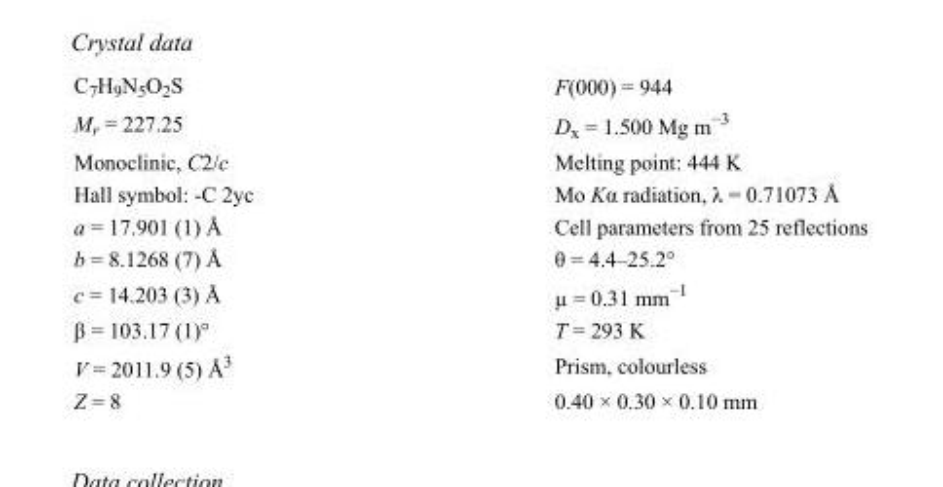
<table><tbody><tr><td>C<sub>7</sub>H<sub>9</sub>N<sub>5</sub>O<sub>2</sub>S</td><td>F(000) = 944</td></tr><tr><td>M<sub>r</sub> = 227.25</td><td>D<sub>x</sub> = 1.500 Mg m<sup>−3</sup></td></tr><tr><td>Monoclinic, C2/c</td><td>Melting point: 444 K</td></tr><tr><td>Hall symbol: -C 2yc</td><td>Mo Kα radiation, λ = 0.71073 Å</td></tr><tr><td>a = 17.901 (1) Å</td><td>Cell parameters from 25 reflections</td></tr><tr><td>b = 8.1268 (7) Å</td><td>θ = 4.4–25.2°</td></tr><tr><td>c = 14.203 (3) Å</td><td>µ = 0.31 mm<sup>−1</sup></td></tr><tr><td>β = 103.17 (1)°</td><td>T = 293 K</td></tr><tr><td>V = 2011.9 (5) Å<sup>3</sup></td><td>Prism, colourless</td></tr><tr><td>Z = 8</td><td>0.40 × 0.30 × 0.10 mm</td></tr></tbody></table>